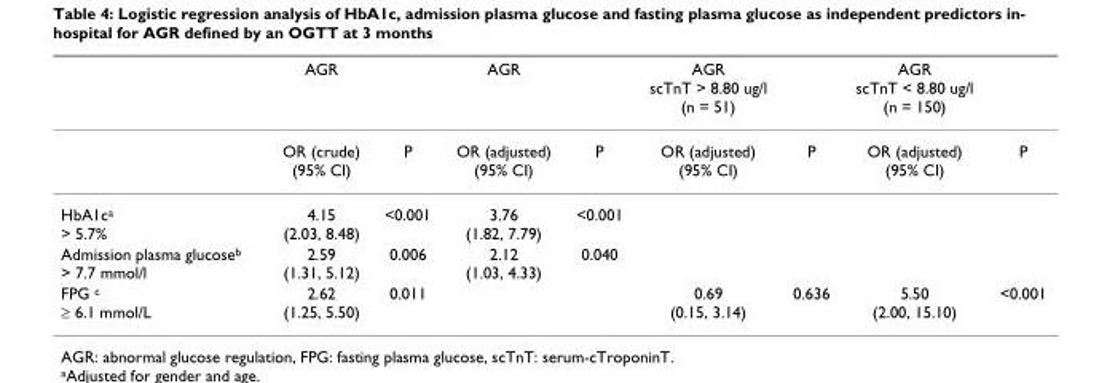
<table><thead><tr><td></td><td>AGR</td><td></td><td>AGR</td><td></td><td>AGR scTnT &gt; 8.80 ug/l (n = 51)</td><td></td><td>AGR scTnT &lt; 8.80 ug/l (n = 150)</td><td></td></tr></thead><tbody><tr><td></td><td>OR (crude) (95% CI)</td><td>P</td><td>OR (adjusted) (95% CI)</td><td>P</td><td>OR (adjusted) (95% CI)</td><td>P</td><td>OR (adjusted) (95% CI)</td><td>P</td></tr><tr><td>HbA1c<sup>a</sup> &gt; 5.7%</td><td>4.15 (2.03, 8.48)</td><td>&lt;0.001</td><td>3.76 (1.82, 7.79)</td><td>&lt;0.001</td><td></td><td></td><td></td><td></td></tr><tr><td>Admission plasma glucose<sup>b</sup> &gt; 7.7 mmol/l</td><td>2.59 (1.31, 5.12)</td><td>0.006</td><td>2.12 (1.03, 4.33)</td><td>0.040</td><td></td><td></td><td></td><td></td></tr><tr><td>FPG <sup>c</sup> ≥ 6.1 mmol/L</td><td>2.62 (1.25, 5.50)</td><td>0.011</td><td></td><td></td><td>0.69 (0.15, 3.14)</td><td>0.636</td><td>5.50 (2.00, 15.10)</td><td>&lt;0.001</td></tr></tbody></table>